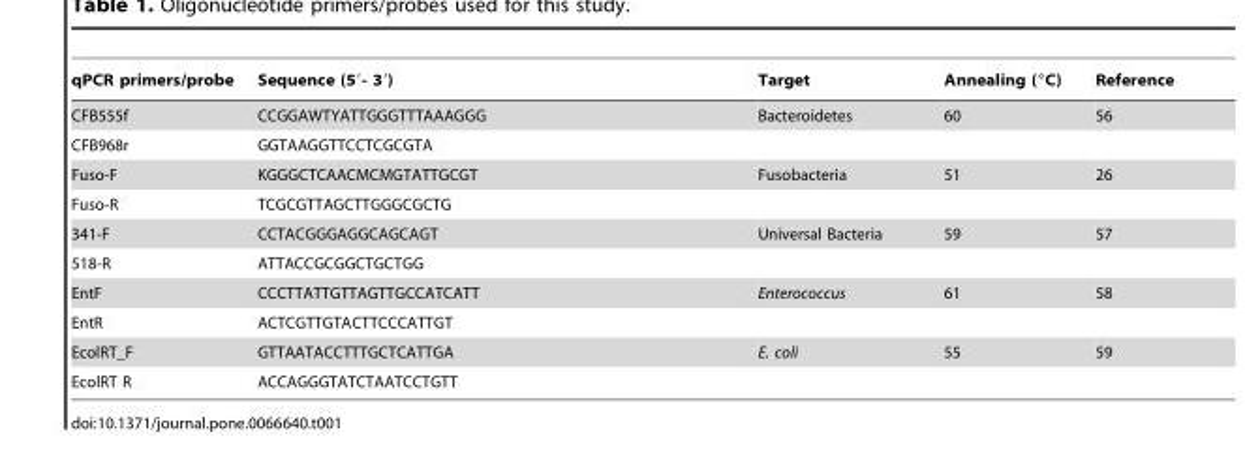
<table><thead><tr><td>qPCR primers/probe</td><td>Sequence (5′- 3′)</td><td>Target</td><td>Annealing (°C)</td><td>Reference</td></tr></thead><tbody><tr><td>CFB555f</td><td>CCGGAWTYATTGGGTTTAAAGGG</td><td>Bacteroidetes</td><td>60</td><td>56</td></tr><tr><td>CFB968r</td><td>GGTAAGGTTCCTCGCGTA</td><td></td><td></td><td></td></tr><tr><td>Fuso-F</td><td>KGGGCTCAACMCMGTATTGCGT</td><td>Fusobacteria</td><td>51</td><td>26</td></tr><tr><td>Fuso-R</td><td>TCGCGTTAGCTTGGGCGCTG</td><td></td><td></td><td></td></tr><tr><td>341-F</td><td>CCTACGGGAGGCAGCAGT</td><td>Universal Bacteria</td><td>59</td><td>57</td></tr><tr><td>518-R</td><td>ATTACCGCGGCTGCTGG</td><td></td><td></td><td></td></tr><tr><td>EntF</td><td>CCCTTATTGTTAGTTGCCATCATT</td><td>Enterococcus</td><td>61</td><td>58</td></tr><tr><td>EntR</td><td>ACTCGTTGTACTTCCCATTGT</td><td></td><td></td><td></td></tr><tr><td>EcolRT_F</td><td>GTTAATACCTTTGCTCATTGA</td><td>E. coli</td><td>55</td><td>59</td></tr><tr><td>EcolRT R</td><td>ACCAGGGTATCTAATCCTGTT</td><td></td><td></td><td></td></tr></tbody></table>